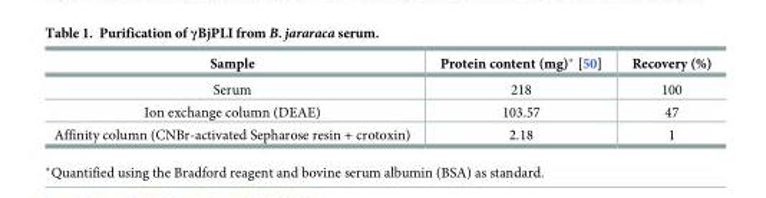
<table><thead><tr><td>Sample</td><td>Protein content (mg)* [50]</td><td>Recovery (%)</td></tr></thead><tbody><tr><td>Serum</td><td>218</td><td>100</td></tr><tr><td>Ion exchange column (DEAE)</td><td>103.57</td><td>47</td></tr><tr><td>Affinity column (CNBr-activated Sepharose resin + crotoxin)</td><td>2.18</td><td>1</td></tr></tbody></table>